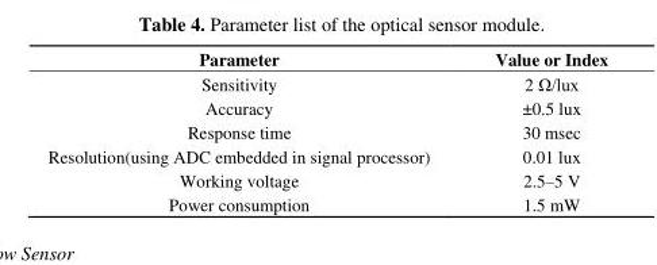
<table><thead><tr><td>Parameter</td><td>Value or Index</td></tr></thead><tbody><tr><td>Sensitivity</td><td>2 Ω/lux</td></tr><tr><td>Accuracy</td><td>±0.5 lux</td></tr><tr><td>Response time</td><td>30 msec</td></tr><tr><td>Resolution(using ADC embedded in signal processor)</td><td>0.01 lux</td></tr><tr><td>Working voltage</td><td>2.5–5 V</td></tr><tr><td>Power consumption</td><td>1.5 mW</td></tr></tbody></table>